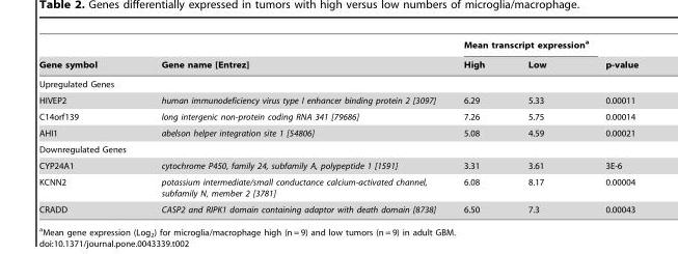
<table><thead><tr><td rowspan="2">Gene symbol</td><td rowspan="2">Gene name [Entrez]</td><td colspan="2">Mean transcript expression<sup>a</sup></td><td rowspan="2">p-value</td></tr><tr><td>High</td><td>Low</td></tr></thead><tbody><tr><td colspan="5">Upregulated Genes</td></tr><tr><td>HIVEP2</td><td>human immunodeficiency virus type I enhancer binding protein 2 [3097]</td><td>6.29</td><td>5.33</td><td>0.00011</td></tr><tr><td>C14orf139</td><td>long intergenic non-protein coding RNA 341 [79686]</td><td>7.26</td><td>5.75</td><td>0.00014</td></tr><tr><td>AHI1</td><td>abelson helper integration site 1 [54806]</td><td>5.08</td><td>4.59</td><td>0.00021</td></tr><tr><td colspan="5">Downregulated Genes</td></tr><tr><td>CYP24A1</td><td>cytochrome P450, family 24, subfamily A, polypeptide 1 [1591]</td><td>3.31</td><td>3.61</td><td>3E-6</td></tr><tr><td>KCNN2</td><td>potassium intermediate/small conductance calcium-activated channel, subfamily N, member 2 [3781]</td><td>6.08</td><td>8.17</td><td>0.00004</td></tr><tr><td>CRADD</td><td>CASP2 and RIPK1 domain containing adaptor with death domain [8738]</td><td>6.50</td><td>7.3</td><td>0.00043</td></tr></tbody></table>